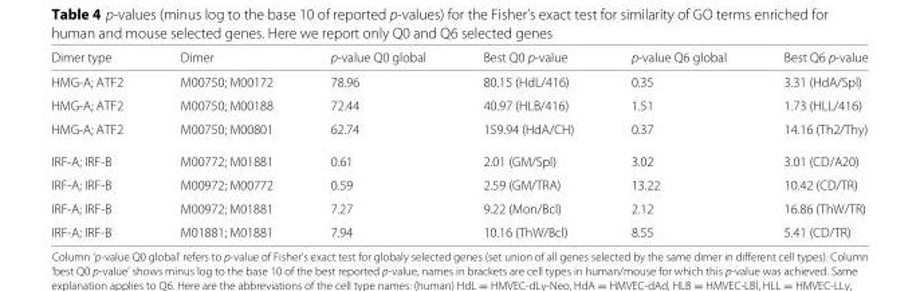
<table><thead><tr><td>Dimer type</td><td>Dimer</td><td>p-value Q0 global</td><td>Best Q0 p-value</td><td>p-value Q6 global</td><td>Best Q6 p-value</td></tr></thead><tbody><tr><td>HMG-A; ATF2</td><td>M00750; M00172</td><td>78.96</td><td>80.15 (HdL/416)</td><td>0.35</td><td>3.31 (HdA/Spl)</td></tr><tr><td>HMG-A; ATF2</td><td>M00750; M00188</td><td>72.44</td><td>40.97 (HLB/416)</td><td>1.51</td><td>1.73 (HLL/416)</td></tr><tr><td>HMG-A; ATF2</td><td>M00750; M00801</td><td>62.74</td><td>159.94 (HdA/CH)</td><td>0.37</td><td>14.16 (Th2/Thy)</td></tr><tr><td>IRF-A; IRF-B</td><td>M00772; M01881</td><td>0.61</td><td>2.01 (GM/Spl)</td><td>3.02</td><td>3.01 (CD/A20)</td></tr><tr><td>IRF-A; IRF-B</td><td>M00972; M00772</td><td>0.59</td><td>2.59 (GM/TRA)</td><td>13.22</td><td>10.42 (CD/TR)</td></tr><tr><td>IRF-A; IRF-B</td><td>M00972; M01881</td><td>7.27</td><td>9.22 (Mon/Bcl)</td><td>2.12</td><td>16.86 (ThW/TR)</td></tr><tr><td>IRF-A; IRF-B</td><td>M01881; M01881</td><td>7.94</td><td>10.16 (ThW/Bcl)</td><td>8.55</td><td>5.41 (CD/TR)</td></tr></tbody></table>